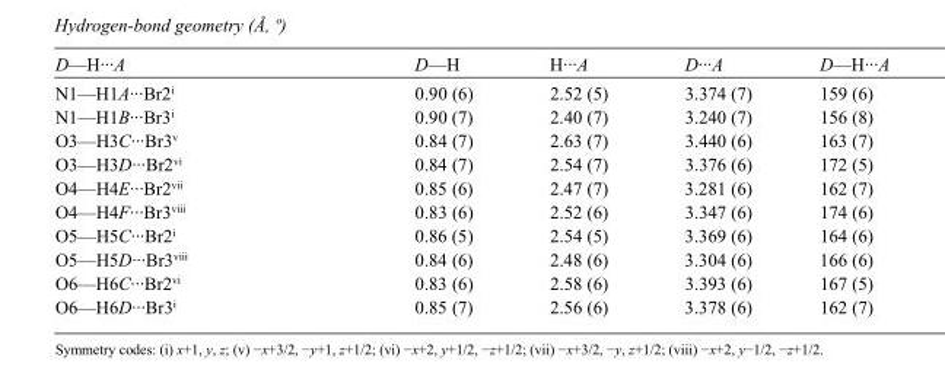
<table><tbody><tr><td>D—H···A</td><td>D—H</td><td>H···A</td><td>D···A</td><td>D—H···A</td></tr><tr><td>N1—H1A···Br2<sup>i</sup></td><td>0.90 (6)</td><td>2.52 (5)</td><td>3.374 (7)</td><td>159 (6)</td></tr><tr><td>N1—H1B···Br3<sup>i</sup></td><td>0.90 (7)</td><td>2.40 (7)</td><td>3.240 (7)</td><td>156 (8)</td></tr><tr><td>O3—H3C···Br3<sup>v</sup></td><td>0.84 (7)</td><td>2.63 (7)</td><td>3.440 (6)</td><td>163 (7)</td></tr><tr><td>O3—H3D···Br2<sup>vi</sup></td><td>0.84 (7)</td><td>2.54 (7)</td><td>3.376 (6)</td><td>172 (5)</td></tr><tr><td>O4—H4E···Br2<sup>vii</sup></td><td>0.85 (6)</td><td>2.47 (7)</td><td>3.281 (6)</td><td>162 (7)</td></tr><tr><td>O4—H4F···Br3<sup>viii</sup></td><td>0.83 (6)</td><td>2.52 (6)</td><td>3.347 (6)</td><td>174 (6)</td></tr><tr><td>O5—H5C···Br2<sup>i</sup></td><td>0.86 (5)</td><td>2.54 (5)</td><td>3.369 (6)</td><td>164 (6)</td></tr><tr><td>O5—H5D···Br3<sup>viii</sup></td><td>0.84 (6)</td><td>2.48 (6)</td><td>3.304 (6)</td><td>166 (6)</td></tr><tr><td>O6—H6C···Br2<sup>vi</sup></td><td>0.83 (6)</td><td>2.58 (6)</td><td>3.393 (6)</td><td>167 (5)</td></tr><tr><td>O6—H6D···Br3<sup>i</sup></td><td>0.85 (7)</td><td>2.56 (6)</td><td>3.378 (6)</td><td>162 (7)</td></tr></tbody></table>